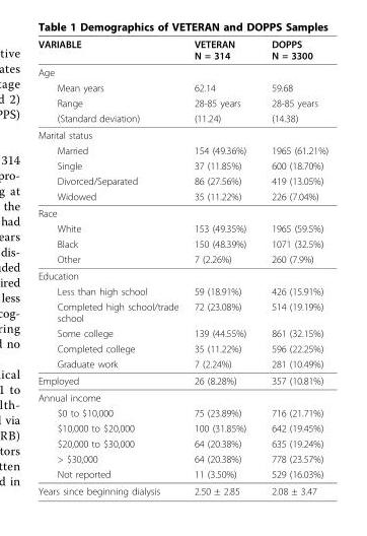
<table><thead><tr><td>VARIABLE</td><td>VETERAN N = 314</td><td>DOPPS N = 3300</td></tr></thead><tbody><tr><td colspan="3">Age</td></tr><tr><td>Mean years</td><td>62.14</td><td>59.68</td></tr><tr><td>Range</td><td>28-85 years</td><td>28-85 years</td></tr><tr><td>(Standard deviation)</td><td>(11.24)</td><td>(14.38)</td></tr><tr><td colspan="3">Marital status</td></tr><tr><td>Married</td><td>154 (49.36%)</td><td>1965 (61.21%)</td></tr><tr><td>Single</td><td>37 (11.85%)</td><td>600 (18.70%)</td></tr><tr><td>Divorced/Separated</td><td>86 (27.56%)</td><td>419 (13.05%)</td></tr><tr><td>Widowed</td><td>35 (11.22%)</td><td>226 (7.04%)</td></tr><tr><td colspan="3">Race</td></tr><tr><td>White</td><td>153 (49.35%)</td><td>1965 (59.5%)</td></tr><tr><td>Black</td><td>150 (48.39%)</td><td>1071 (32.5%)</td></tr><tr><td>Other</td><td>7 (2.26%)</td><td>260 (7.9%)</td></tr><tr><td colspan="3">Education</td></tr><tr><td>Less than high school</td><td>59 (18.91%)</td><td>426 (15.91%)</td></tr><tr><td>Completed high school/trade school</td><td>72 (23.08%)</td><td>514 (19.19%)</td></tr><tr><td>Some college</td><td>139 (44.55%)</td><td>861 (32.15%)</td></tr><tr><td>Completed college</td><td>35 (11.22%)</td><td>596 (22.25%)</td></tr><tr><td>Graduate work</td><td>7 (2.24%)</td><td>281 (10.49%)</td></tr><tr><td>Employed</td><td>26 (8.28%)</td><td>357 (10.81%)</td></tr><tr><td colspan="3">Annual income</td></tr><tr><td>$0 to $10,000</td><td>75 (23.89%)</td><td>716 (21.71%)</td></tr><tr><td>$10,000 to $20,000</td><td>100 (31.85%)</td><td>642 (19.45%)</td></tr><tr><td>$20,000 to $30,000</td><td>64 (20.38%)</td><td>635 (19.24%)</td></tr><tr><td>&gt; $30,000</td><td>64 (20.38%)</td><td>778 (23.57%)</td></tr><tr><td>Not reported</td><td>11 (3.50%)</td><td>529 (16.03%)</td></tr><tr><td>Years since beginning dialysis</td><td>2.50 ± 2.85</td><td>2.08 ± 3.47</td></tr></tbody></table>